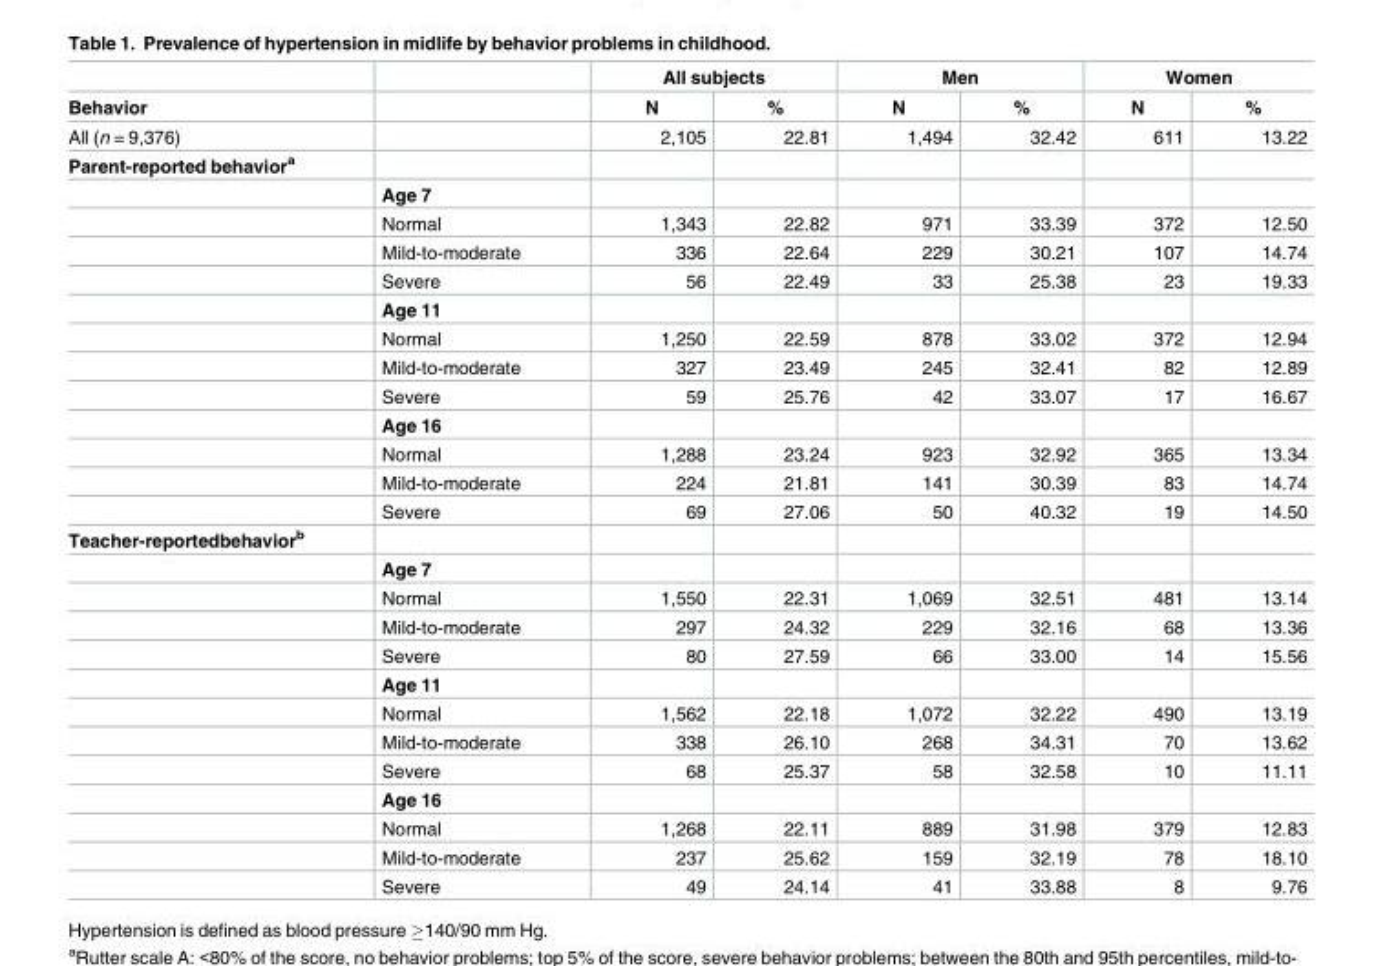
<table><thead><tr><td rowspan="2">Behavior</td><td rowspan="2"></td><td colspan="2">All subjects</td><td colspan="2">Men</td><td colspan="2">Women</td></tr><tr><td>N</td><td>%</td><td>N</td><td>%</td><td>N</td><td>%</td></tr></thead><tbody><tr><td>All (n = 9,376)</td><td></td><td>2,105</td><td>22.81</td><td>1,494</td><td>32.42</td><td>611</td><td>13.22</td></tr><tr><td colspan="8">Parent-reported behavior<sup>a</sup></td></tr><tr><td></td><td>Age 7</td><td></td><td></td><td></td><td></td><td></td><td></td></tr><tr><td></td><td>Normal</td><td>1,343</td><td>22.82</td><td>971</td><td>33.39</td><td>372</td><td>12.50</td></tr><tr><td></td><td>Mild-to-moderate</td><td>336</td><td>22.64</td><td>229</td><td>30.21</td><td>107</td><td>14.74</td></tr><tr><td></td><td>Severe</td><td>56</td><td>22.49</td><td>33</td><td>25.38</td><td>23</td><td>19.33</td></tr><tr><td></td><td>Age 11</td><td></td><td></td><td></td><td></td><td></td><td></td></tr><tr><td></td><td>Normal</td><td>1,250</td><td>22.59</td><td>878</td><td>33.02</td><td>372</td><td>12.94</td></tr><tr><td></td><td>Mild-to-moderate</td><td>327</td><td>23.49</td><td>245</td><td>32.41</td><td>82</td><td>12.89</td></tr><tr><td></td><td>Severe</td><td>59</td><td>25.76</td><td>42</td><td>33.07</td><td>17</td><td>16.67</td></tr><tr><td></td><td>Age 16</td><td></td><td></td><td></td><td></td><td></td><td></td></tr><tr><td></td><td>Normal</td><td>1,288</td><td>23.24</td><td>923</td><td>32.92</td><td>365</td><td>13.34</td></tr><tr><td></td><td>Mild-to-moderate</td><td>224</td><td>21.81</td><td>141</td><td>30.39</td><td>83</td><td>14.74</td></tr><tr><td></td><td>Severe</td><td>69</td><td>27.06</td><td>50</td><td>40.32</td><td>19</td><td>14.50</td></tr><tr><td colspan="8">Teacher-reportedbehavior<sup>b</sup></td></tr><tr><td></td><td>Age 7</td><td></td><td></td><td></td><td></td><td></td><td></td></tr><tr><td></td><td>Normal</td><td>1,550</td><td>22.31</td><td>1,069</td><td>32.51</td><td>481</td><td>13.14</td></tr><tr><td></td><td>Mild-to-moderate</td><td>297</td><td>24.32</td><td>229</td><td>32.16</td><td>68</td><td>13.36</td></tr><tr><td></td><td>Severe</td><td>80</td><td>27.59</td><td>66</td><td>33.00</td><td>14</td><td>15.56</td></tr><tr><td></td><td>Age 11</td><td></td><td></td><td></td><td></td><td></td><td></td></tr><tr><td></td><td>Normal</td><td>1,562</td><td>22.18</td><td>1,072</td><td>32.22</td><td>490</td><td>13.19</td></tr><tr><td></td><td>Mild-to-moderate</td><td>338</td><td>26.10</td><td>268</td><td>34.31</td><td>70</td><td>13.62</td></tr><tr><td></td><td>Severe</td><td>68</td><td>25.37</td><td>58</td><td>32.58</td><td>10</td><td>11.11</td></tr><tr><td></td><td>Age 16</td><td></td><td></td><td></td><td></td><td></td><td></td></tr><tr><td></td><td>Normal</td><td>1,268</td><td>22.11</td><td>889</td><td>31.98</td><td>379</td><td>12.83</td></tr><tr><td></td><td>Mild-to-moderate</td><td>237</td><td>25.62</td><td>159</td><td>32.19</td><td>78</td><td>18.10</td></tr><tr><td></td><td>Severe</td><td>49</td><td>24.14</td><td>41</td><td>33.88</td><td>8</td><td>9.76</td></tr></tbody></table>